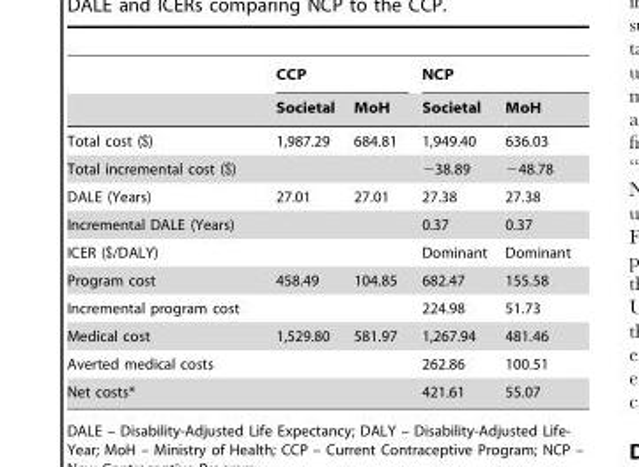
<table><thead><tr><td rowspan="2"></td><td colspan="2">CCP</td><td colspan="2">NCP</td></tr><tr><td>Societal</td><td>MoH</td><td>Societal</td><td>MoH</td></tr></thead><tbody><tr><td>Total cost ($)</td><td>1,987.29</td><td>684.81</td><td>1,949.40</td><td>636.03</td></tr><tr><td>Total incremental cost ($)</td><td></td><td></td><td>−38.89</td><td>−48.78</td></tr><tr><td>DALE (Years)</td><td>27.01</td><td>27.01</td><td>27.38</td><td>27.38</td></tr><tr><td>Incremental DALE (Years)</td><td></td><td></td><td>0.37</td><td>0.37</td></tr><tr><td>ICER ($/DALY)</td><td></td><td></td><td>Dominant</td><td>Dominant</td></tr><tr><td>Program cost</td><td>458.49</td><td>104.85</td><td>682.47</td><td>155.58</td></tr><tr><td>Incremental program cost</td><td></td><td></td><td>224.98</td><td>51.73</td></tr><tr><td>Medical cost</td><td>1,529.80</td><td>581.97</td><td>1,267.94</td><td>481.46</td></tr><tr><td>Averted medical costs</td><td></td><td></td><td>262.86</td><td>100.51</td></tr><tr><td>Net costs*</td><td></td><td></td><td>421.61</td><td>55.07</td></tr></tbody></table>